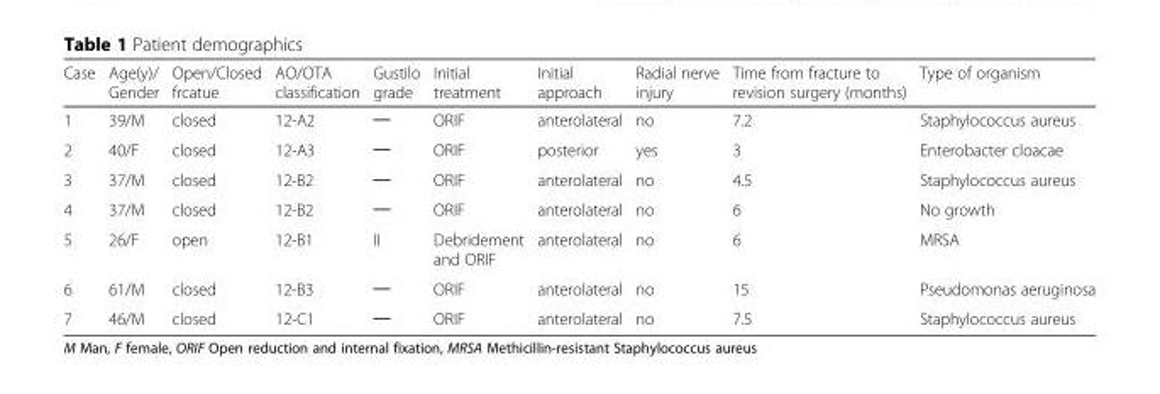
<table><thead><tr><td>Case</td><td>Age(y)/ Gender</td><td>Open/Closed frcatue</td><td>AO/OTA classification</td><td>Gustilo grade</td><td>Initial treatment</td><td>Initial approach</td><td>Radial nerve injury</td><td>Time from fracture to revision surgery (months)</td><td>Type of organism</td></tr></thead><tbody><tr><td>1</td><td>39/M</td><td>closed</td><td>12-A2</td><td>─</td><td>ORIF</td><td>anterolateral</td><td>no</td><td>7.2</td><td>Staphylococcus aureus</td></tr><tr><td>2</td><td>40/F</td><td>closed</td><td>12-A3</td><td>─</td><td>ORIF</td><td>posterior</td><td>yes</td><td>3</td><td>Enterobacter cloacae</td></tr><tr><td>3</td><td>37/M</td><td>closed</td><td>12-B2</td><td>─</td><td>ORIF</td><td>anterolateral</td><td>no</td><td>4.5</td><td>Staphylococcus aureus</td></tr><tr><td>4</td><td>37/M</td><td>closed</td><td>12-B2</td><td>─</td><td>ORIF</td><td>anterolateral</td><td>no</td><td>6</td><td>No growth</td></tr><tr><td>5</td><td>26/F</td><td>open</td><td>12-B1</td><td>II</td><td>Debridement and ORIF</td><td>anterolateral</td><td>no</td><td>6</td><td>MRSA</td></tr><tr><td>6</td><td>61/M</td><td>closed</td><td>12-B3</td><td>─</td><td>ORIF</td><td>anterolateral</td><td>no</td><td>15</td><td>Pseudomonas aeruginosa</td></tr><tr><td>7</td><td>46/M</td><td>closed</td><td>12-C1</td><td>─</td><td>ORIF</td><td>anterolateral</td><td>no</td><td>7.5</td><td>Staphylococcus aureus</td></tr></tbody></table>